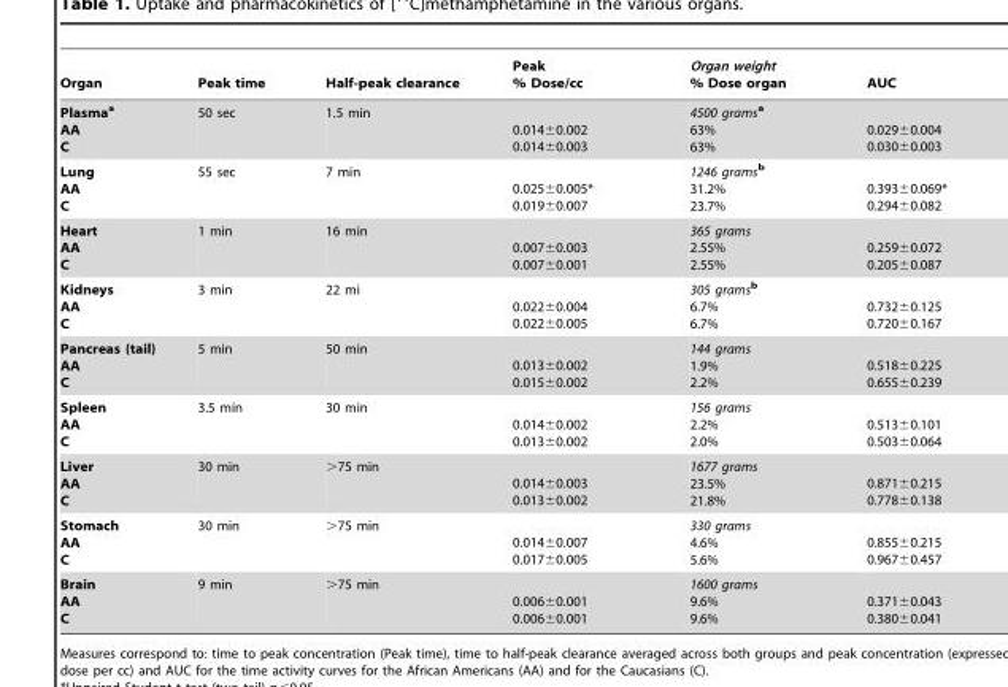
<table><thead><tr><td>Organ</td><td>Peak time</td><td>Half-peak clearance</td><td>Peak % Dose/cc</td><td>Organ weight % Dose organ</td><td>AUC</td></tr></thead><tbody><tr><td>Plasmaa AA C</td><td>50 sec</td><td>1.5 min</td><td>0.014±0.002 0.014±0.003</td><td>4500 gramsa 63% 63%</td><td>0.029±0.004 0.030±0.003</td></tr><tr><td>Lung AA C</td><td>55 sec</td><td>7 min</td><td>0.025±0.005* 0.019±0.007</td><td>1246 gramsb 31.2% 23.7%</td><td>0.393±0.069* 0.294±0.082</td></tr><tr><td>Heart AA C</td><td>1 min</td><td>16 min</td><td>0.007±0.003 0.007±0.001</td><td>365 grams 2.55% 2.55%</td><td>0.259±0.072 0.205±0.087</td></tr><tr><td>Kidneys AA C</td><td>3 min</td><td>22 mi</td><td>0.022±0.004 0.022±0.005</td><td>305 gramsb 6.7% 6.7%</td><td>0.732±0.125 0.720±0.167</td></tr><tr><td>Pancreas (tail) AA C</td><td>5 min</td><td>50 min</td><td>0.013±0.002 0.015±0.002</td><td>144 grams 1.9% 2.2%</td><td>0.518±0.225 0.655±0.239</td></tr><tr><td>Spleen AA C</td><td>3.5 min</td><td>30 min</td><td>0.014±0.002 0.013±0.002</td><td>156 grams 2.2% 2.0%</td><td>0.513±0.101 0.503±0.064</td></tr><tr><td>Liver AA C</td><td>30 min</td><td>&gt;75 min</td><td>0.014±0.003 0.013±0.002</td><td>1677 grams 23.5% 21.8%</td><td>0.871±0.215 0.778±0.138</td></tr><tr><td>Stomach AA C</td><td>30 min</td><td>&gt;75 min</td><td>0.014±0.007 0.017±0.005</td><td>330 grams 4.6% 5.6%</td><td>0.855±0.215 0.967±0.457</td></tr><tr><td>Brain AA C</td><td>9 min</td><td>&gt;75 min</td><td>0.006±0.001 0.006±0.001</td><td>1600 grams 9.6% 9.6%</td><td>0.371±0.043 0.380±0.041</td></tr></tbody></table>